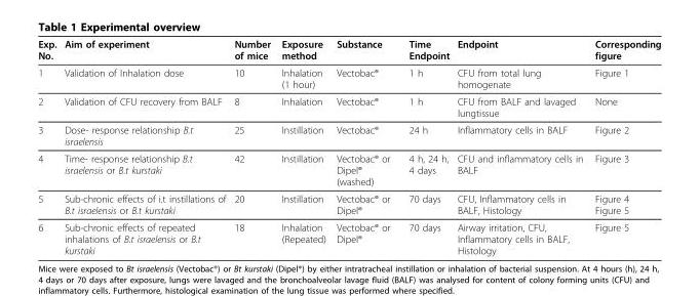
<table><thead><tr><td>Exp. No.</td><td>Aim of experiment</td><td>Number of mice</td><td>Exposure method</td><td>Substance</td><td>Time Endpoint</td><td>Endpoint</td><td>Corresponding figure</td></tr></thead><tbody><tr><td>1</td><td>Validation of Inhalation dose</td><td>10</td><td>Inhalation (1 hour)</td><td>Vectobac<sup>®</sup></td><td>1 h</td><td>CFU from total lung homogenate</td><td>Figure 1</td></tr><tr><td>2</td><td>Validation of CFU recovery from BALF</td><td>8</td><td>Inhalation</td><td>Vectobac<sup>®</sup></td><td>1 h</td><td>CFU from BALF and lavaged lungtissue</td><td>None</td></tr><tr><td>3</td><td>Dose- response relationship B.t israelensis</td><td>25</td><td>Instillation</td><td>Vectobac<sup>®</sup></td><td>24 h</td><td>Inflammatory cells in BALF</td><td>Figure 2</td></tr><tr><td>4</td><td>Time- response relationship B.t israelensis or B.t kurstaki</td><td>42</td><td>Instillation</td><td>Vectobac<sup>®</sup> or Dipel<sup>®</sup> (washed)</td><td>4 h, 24 h, 4 days</td><td>CFU and inflammatory cells in BALF</td><td>Figure 3</td></tr><tr><td>5</td><td>Sub-chronic effects of i.t instillations of B.t israelensis or B.t kurstaki</td><td>20</td><td>Instillation</td><td>Vectobac<sup>®</sup> or Dipel<sup>®</sup></td><td>70 days</td><td>CFU, Inflammatory cells in BALF, Histology</td><td>Figure 4 Figure 5</td></tr><tr><td>6</td><td>Sub-chronic effects of repeated inhalations of B.t israelensis or B.t kurstaki</td><td>18</td><td>Inhalation (Repeated)</td><td>Vectobac<sup>®</sup> or Dipel<sup>®</sup></td><td>70 days</td><td>Airway irritation, CFU, Inflammatory cells in BALF, Histology</td><td>Figure 5</td></tr></tbody></table>